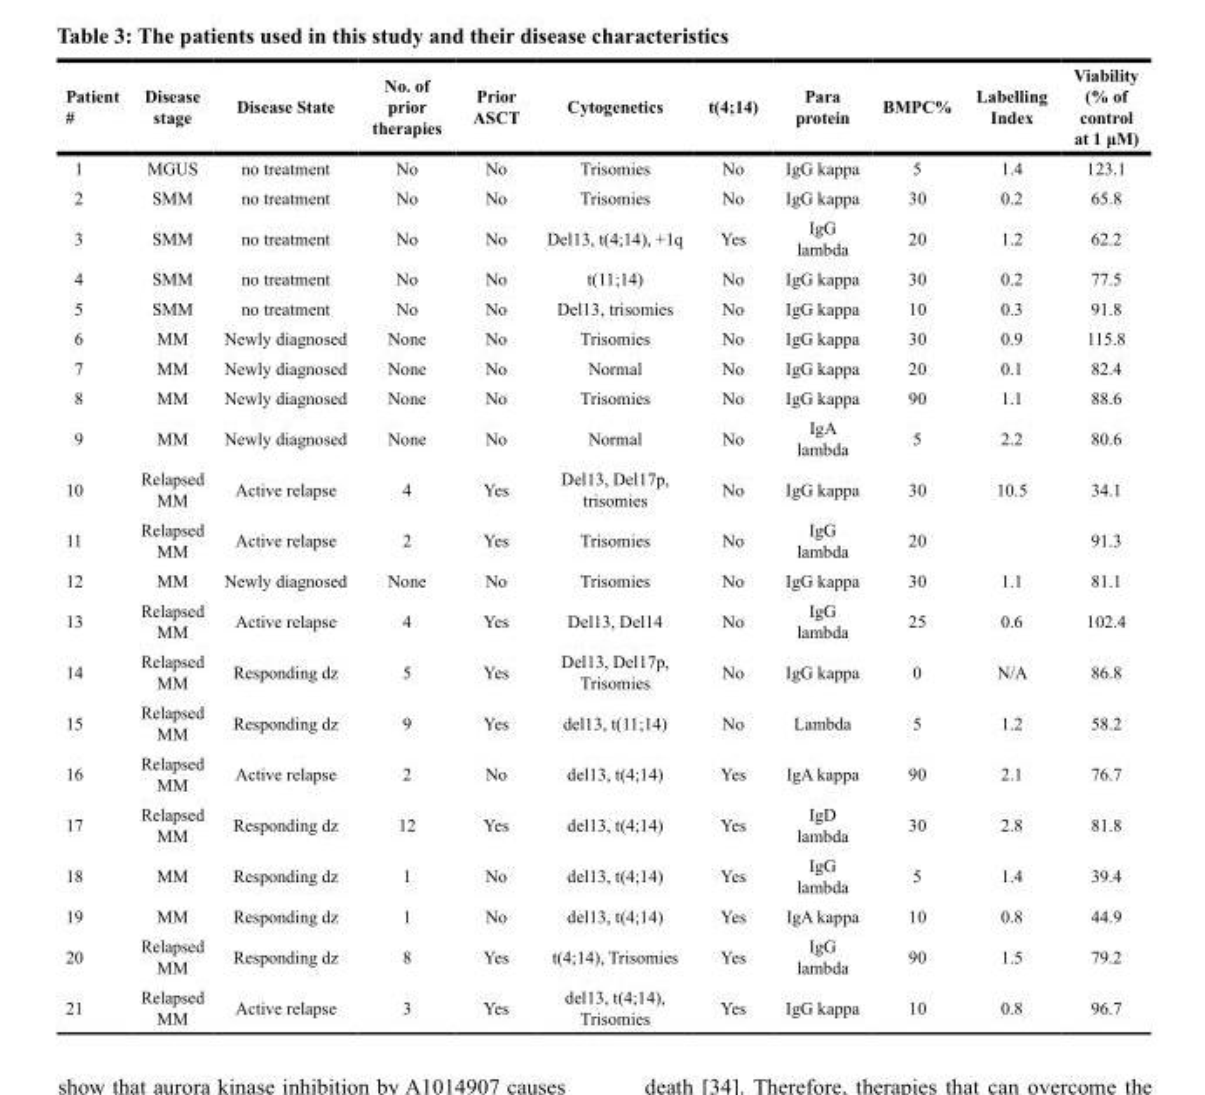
<table><thead><tr><td>Patient #</td><td>Disease stage</td><td>Disease State</td><td>No. of prior therapies</td><td>Prior ASCT</td><td>Cytogenetics</td><td>t(4;14)</td><td>Para protein</td><td>BMPC%</td><td>Labelling Index</td><td>Viability (% of control at 1 μM)</td></tr></thead><tbody><tr><td>1</td><td>MGUS</td><td>no treatment</td><td>No</td><td>No</td><td>Trisomies</td><td>No</td><td>IgG kappa</td><td>5</td><td>1.4</td><td>123.1</td></tr><tr><td>2</td><td>SMM</td><td>no treatment</td><td>No</td><td>No</td><td>Trisomies</td><td>No</td><td>IgG kappa</td><td>30</td><td>0.2</td><td>65.8</td></tr><tr><td>3</td><td>SMM</td><td>no treatment</td><td>No</td><td>No</td><td>Del13, t(4;14), +1q</td><td>Yes</td><td>IgG lambda</td><td>20</td><td>1.2</td><td>62.2</td></tr><tr><td>4</td><td>SMM</td><td>no treatment</td><td>No</td><td>No</td><td>t(11;14)</td><td>No</td><td>IgG kappa</td><td>30</td><td>0.2</td><td>77.5</td></tr><tr><td>5</td><td>SMM</td><td>no treatment</td><td>No</td><td>No</td><td>Del13, trisomies</td><td>No</td><td>IgG kappa</td><td>10</td><td>0.3</td><td>91.8</td></tr><tr><td>6</td><td>MM</td><td>Newly diagnosed</td><td>None</td><td>No</td><td>Trisomies</td><td>No</td><td>IgG kappa</td><td>30</td><td>0.9</td><td>115.8</td></tr><tr><td>7</td><td>MM</td><td>Newly diagnosed</td><td>None</td><td>No</td><td>Normal</td><td>No</td><td>IgG kappa</td><td>20</td><td>0.1</td><td>82.4</td></tr><tr><td>8</td><td>MM</td><td>Newly diagnosed</td><td>None</td><td>No</td><td>Trisomies</td><td>No</td><td>IgG kappa</td><td>90</td><td>1.1</td><td>88.6</td></tr><tr><td>9</td><td>MM</td><td>Newly diagnosed</td><td>None</td><td>No</td><td>Normal</td><td>No</td><td>IgA lambda</td><td>5</td><td>2.2</td><td>80.6</td></tr><tr><td>10</td><td>Relapsed MM</td><td>Active relapse</td><td>4</td><td>Yes</td><td>Del13, Del17p, trisomies</td><td>No</td><td>IgG kappa</td><td>30</td><td>10.5</td><td>34.1</td></tr><tr><td>11</td><td>Relapsed MM</td><td>Active relapse</td><td>2</td><td>Yes</td><td>Trisomies</td><td>No</td><td>IgG lambda</td><td>20</td><td></td><td>91.3</td></tr><tr><td>12</td><td>MM</td><td>Newly diagnosed</td><td>None</td><td>No</td><td>Trisomies</td><td>No</td><td>IgG kappa</td><td>30</td><td>1.1</td><td>81.1</td></tr><tr><td>13</td><td>Relapsed MM</td><td>Active relapse</td><td>4</td><td>Yes</td><td>Del13, Del14</td><td>No</td><td>IgG lambda</td><td>25</td><td>0.6</td><td>102.4</td></tr><tr><td>14</td><td>Relapsed MM</td><td>Responding dz</td><td>5</td><td>Yes</td><td>Del13, Del17p, Trisomies</td><td>No</td><td>IgG kappa</td><td>0</td><td>N/A</td><td>86.8</td></tr><tr><td>15</td><td>Relapsed MM</td><td>Responding dz</td><td>9</td><td>Yes</td><td>del13, t(11;14)</td><td>No</td><td>Lambda</td><td>5</td><td>1.2</td><td>58.2</td></tr><tr><td>16</td><td>Relapsed MM</td><td>Active relapse</td><td>2</td><td>No</td><td>del13, t(4;14)</td><td>Yes</td><td>IgA kappa</td><td>90</td><td>2.1</td><td>76.7</td></tr><tr><td>17</td><td>Relapsed MM</td><td>Responding dz</td><td>12</td><td>Yes</td><td>del13, t(4;14)</td><td>Yes</td><td>IgD lambda</td><td>30</td><td>2.8</td><td>81.8</td></tr><tr><td>18</td><td>MM</td><td>Responding dz</td><td>1</td><td>No</td><td>del13, t(4;14)</td><td>Yes</td><td>IgG lambda</td><td>5</td><td>1.4</td><td>39.4</td></tr><tr><td>19</td><td>MM</td><td>Responding dz</td><td>1</td><td>No</td><td>del13, t(4;14)</td><td>Yes</td><td>IgA kappa</td><td>10</td><td>0.8</td><td>44.9</td></tr><tr><td>20</td><td>Relapsed MM</td><td>Responding dz</td><td>8</td><td>Yes</td><td>t(4;14), Trisomies</td><td>Yes</td><td>IgG lambda</td><td>90</td><td>1.5</td><td>79.2</td></tr><tr><td>21</td><td>Relapsed MM</td><td>Active relapse</td><td>3</td><td>Yes</td><td>del13, t(4;14), Trisomies</td><td>Yes</td><td>IgG kappa</td><td>10</td><td>0.8</td><td>96.7</td></tr></tbody></table>